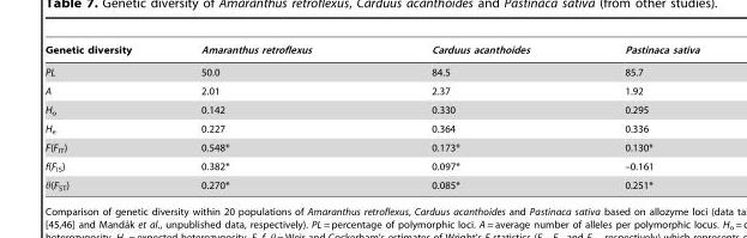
<table><thead><tr><td>Genetic diversity</td><td>Amaranthus retroflexus</td><td>Carduus acanthoides</td><td>Pastinaca sativa</td></tr></thead><tbody><tr><td>PL</td><td>50.0</td><td>84.5</td><td>85.7</td></tr><tr><td>A</td><td>2.01</td><td>2.37</td><td>1.92</td></tr><tr><td>H<sub>o</sub></td><td>0.142</td><td>0.330</td><td>0.295</td></tr><tr><td>H<sub>e</sub></td><td>0.227</td><td>0.364</td><td>0.336</td></tr><tr><td>F(F<sub>IT</sub>)</td><td>0.548*</td><td>0.173*</td><td>0.130*</td></tr><tr><td>f(F<sub>IS</sub>)</td><td>0.382*</td><td>0.097*</td><td>–0.161</td></tr><tr><td>θ(F<sub>ST</sub>)</td><td>0.270*</td><td>0.085*</td><td>0.251*</td></tr></tbody></table>